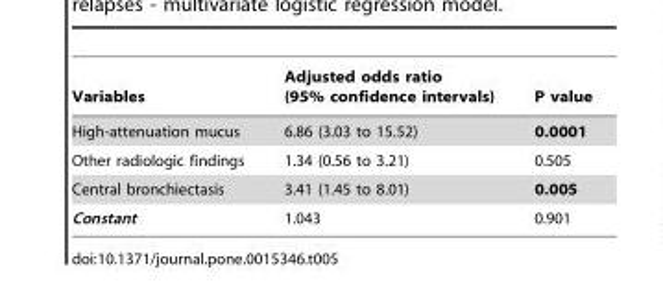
<table><thead><tr><td>Variables</td><td>Adjusted odds ratio (95% confidence intervals)</td><td>P value</td></tr></thead><tbody><tr><td>High-attenuation mucus</td><td>6.86 (3.03 to 15.52)</td><td>0.0001</td></tr><tr><td>Other radiologic findings</td><td>1.34 (0.56 to 3.21)</td><td>0.505</td></tr><tr><td>Central bronchiectasis</td><td>3.41 (1.45 to 8.01)</td><td>0.005</td></tr><tr><td>Constant</td><td>1.043</td><td>0.901</td></tr></tbody></table>